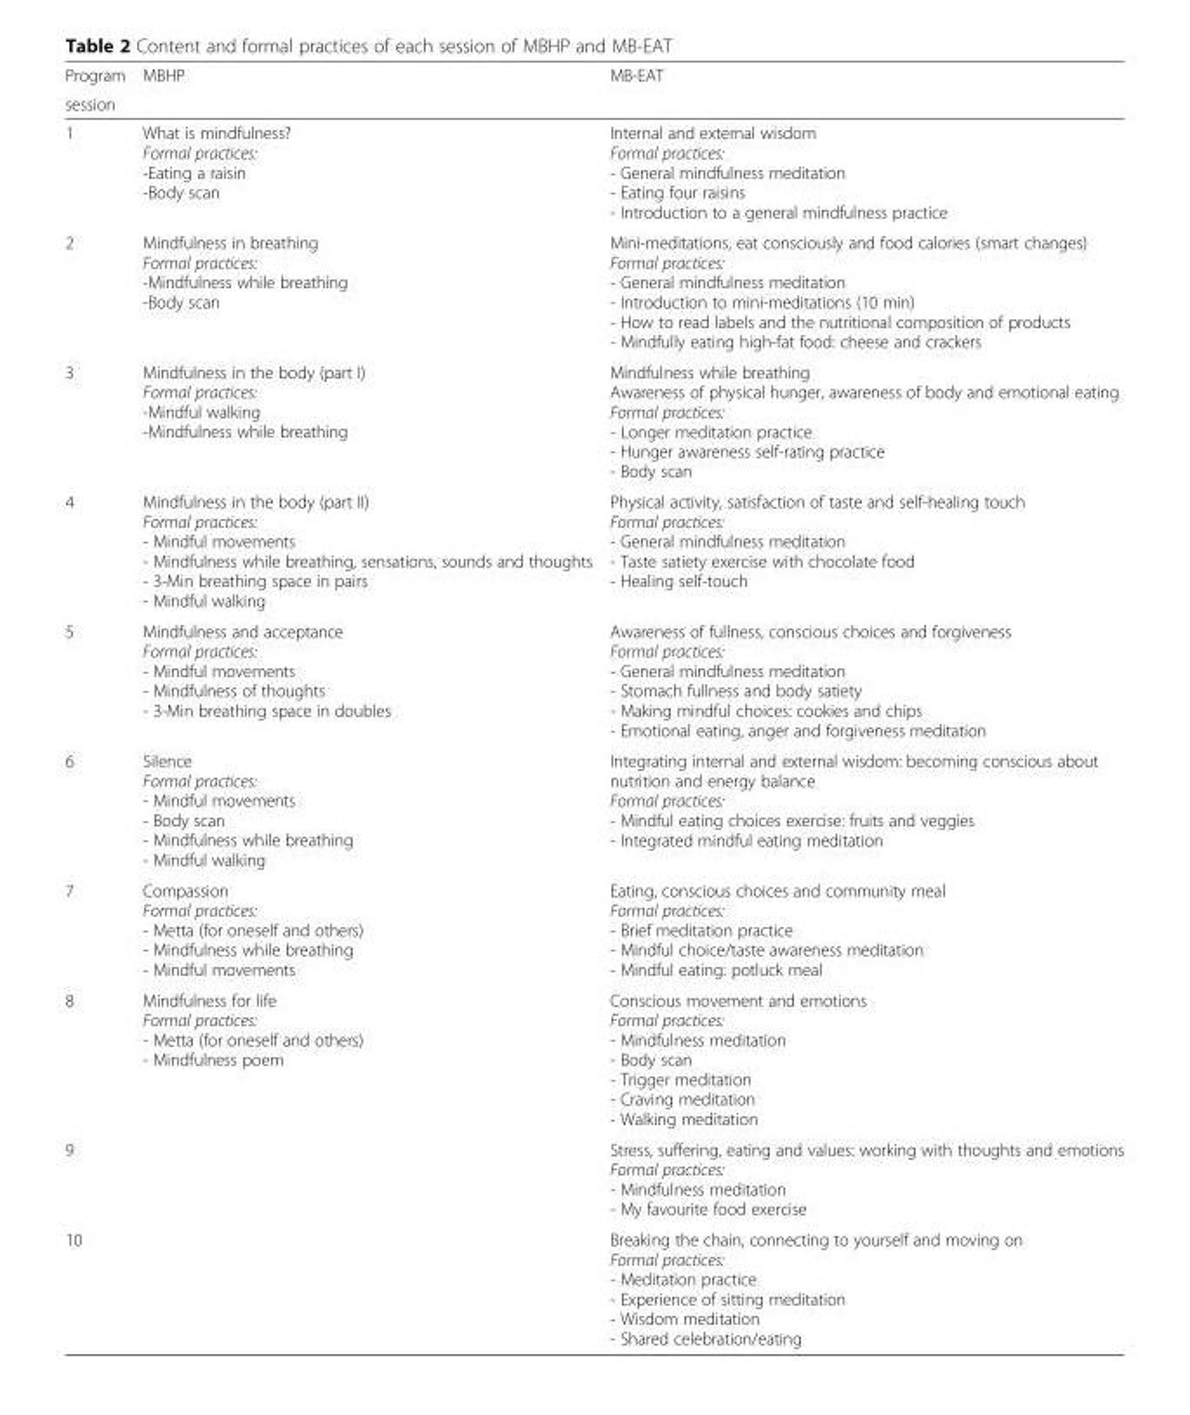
<table><thead><tr><td rowspan="2">Program session</td><td rowspan="2">MBHP</td><td rowspan="2">MB-EAT</td></tr><tr></tr></thead><tbody><tr><td>1</td><td>What is mindfulness? Formal practices: -Eating a raisin -Body scan</td><td>Internal and external wisdom Formal practices: - General mindfulness meditation - Eating four raisins - Introduction to a general mindfulness practice</td></tr><tr><td>2</td><td>Mindfulness in breathing Formal practices: -Mindfulness while breathing -Body scan</td><td>Mini-meditations, eat consciously and food calories (smart changes) Formal practices: - General mindfulness meditation - Introduction to mini-meditations (10 min) - How to read labels and the nutritional composition of products - Mindfully eating high-fat food: cheese and crackers</td></tr><tr><td>3</td><td>Mindfulness in the body (part I) Formal practices: -Mindful walking -Mindfulness while breathing</td><td>Mindfulness while breathing Awareness of physical hunger, awareness of body and emotional eating Formal practices: - Longer meditation practice - Hunger awareness self-rating practice - Body scan</td></tr><tr><td>4</td><td>Mindfulness in the body (part II) Formal practices: - Mindful movements - Mindfulness while breathing, sensations, sounds and thoughts - 3-Min breathing space in pairs - Mindful walking</td><td>Physical activity, satisfaction of taste and self-healing touch Formal practices: - General mindfulness meditation - Taste satiety exercise with chocolate food - Healing self-touch</td></tr><tr><td>5</td><td>Mindfulness and acceptance Formal practices: - Mindful movements - Mindfulness of thoughts - 3-Min breathing space in doubles</td><td>Awareness of fullness, conscious choices and forgiveness Formal practices: - General mindfulness meditation - Stomach fullness and body satiety - Making mindful choices: cookies and chips - Emotional eating, anger and forgiveness meditation</td></tr><tr><td>6</td><td>Silence Formal practices: - Mindful movements - Body scan - Mindfulness while breathing - Mindful walking</td><td>Integrating internal and external wisdom: becoming conscious about nutrition and energy balance Formal practices: - Mindful eating choices exercise: fruits and veggies - Integrated mindful eating meditation</td></tr><tr><td>7</td><td>Compassion Formal practices: - Metta (for oneself and others) - Mindfulness while breathing - Mindful movements</td><td>Eating, conscious choices and community meal Formal practices: - Brief meditation practice - Mindful choice/taste awareness meditation - Mindful eating: potluck meal</td></tr><tr><td>8</td><td>Mindfulness for life Formal practices: - Metta (for oneself and others) - Mindfulness poem</td><td>Conscious movement and emotions Formal practices: - Mindfulness meditation - Body scan - Trigger meditation - Craving meditation - Walking meditation</td></tr><tr><td>9</td><td></td><td>Stress, suffering, eating and values: working with thoughts and emotions Formal practices: - Mindfulness meditation - My favourite food exercise</td></tr><tr><td>10</td><td></td><td>Breaking the chain, connecting to yourself and moving on Formal practices: - Meditation practice - Experience of sitting meditation - Wisdom meditation - Shared celebration/eating</td></tr></tbody></table>